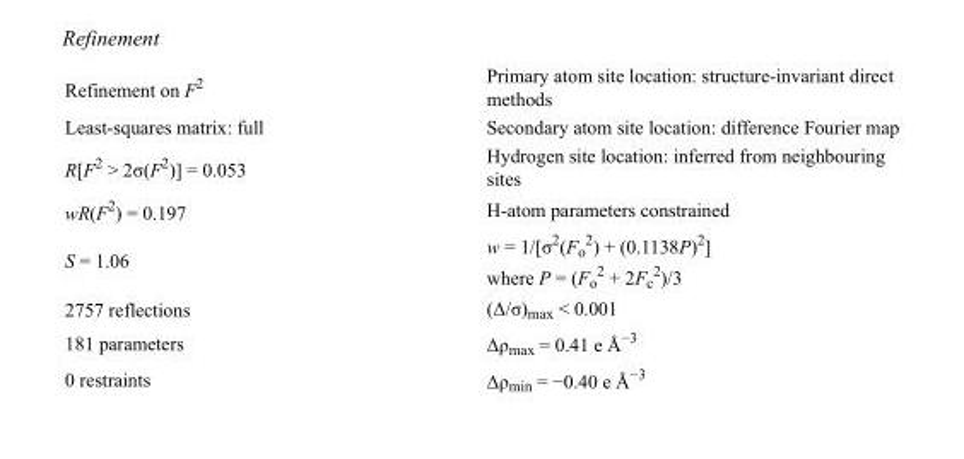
<table><tbody><tr><td>Refinement on F<sup>2</sup></td><td>Primary atom site location: structure-invariant direct methods</td></tr><tr><td>Least-squares matrix: full</td><td>Secondary atom site location: difference Fourier map</td></tr><tr><td>R[F<sup>2</sup> &gt; 2σ(F<sup>2</sup>)] = 0.053</td><td>Hydrogen site location: inferred from neighbouring sites</td></tr><tr><td>wR(F<sup>2</sup>) = 0.197</td><td>H-atom parameters constrained</td></tr><tr><td>S = 1.06</td><td>w = 1/[σ<sup>2</sup>(F<sub>o</sub> <sup>2</sup>) + (0.1138P)<sup>2</sup>] where P = (F<sub>o</sub> <sup>2</sup> + 2F<sub>c</sub> <sup>2</sup>)/3</td></tr><tr><td>2757 reflections</td><td>(Δ/σ)<sub>max</sub> &lt; 0.001</td></tr><tr><td>181 parameters</td><td>Δρ<sub>max</sub> = 0.41 e Å<sup>−3</sup></td></tr><tr><td>0 restraints</td><td>Δρ<sub>min</sub> = −0.40 e Å<sup>−3</sup></td></tr></tbody></table>